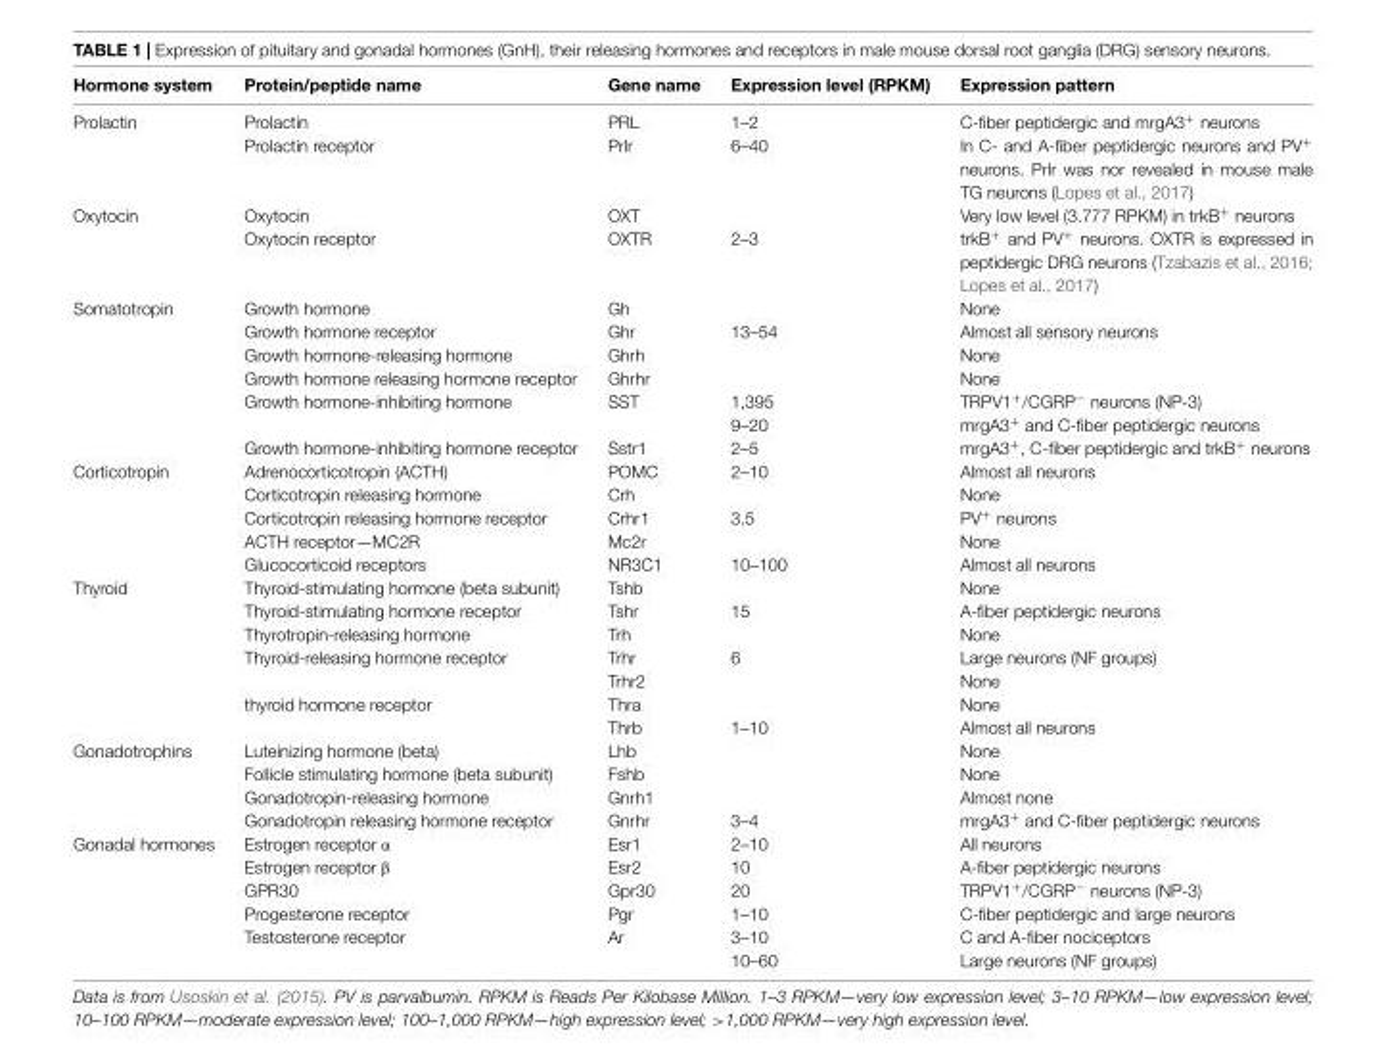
<table><thead><tr><td>Hormone system</td><td>Protein/peptide name</td><td>Gene name</td><td>Expression level (RPKM)</td><td>Expression pattern</td></tr></thead><tbody><tr><td rowspan="2">Prolactin</td><td>Prolactin</td><td>PRL</td><td>1–2</td><td>C-fiber peptidergic and mrgA3<sup>+</sup> neurons</td></tr><tr><td>Prolactin receptor</td><td>Prlr</td><td>6–40</td><td>In C- and A-fiber peptidergic neurons and PV<sup>+</sup> neurons. Prlr was nor revealed in mouse male TG neurons (Lopes et al., 2017)</td></tr><tr><td rowspan="2">Oxytocin</td><td>Oxytocin</td><td>OXT</td><td></td><td>Very low level (3.777 RPKM) in trkB<sup>+</sup> neurons</td></tr><tr><td>Oxytocin receptor</td><td>OXTR</td><td>2–3</td><td>trkB<sup>+</sup> and PV<sup>+</sup> neurons. OXTR is expressed in peptidergic DRG neurons (Tzabazis et al., 2016; Lopes et al., 2017)</td></tr><tr><td rowspan="7">Somatotropin</td><td>Growth hormone</td><td>Gh</td><td></td><td>None</td></tr><tr><td>Growth hormone receptor</td><td>Ghr</td><td>13–54</td><td>Almost all sensory neurons</td></tr><tr><td>Growth hormone-releasing hormone</td><td>Ghrh</td><td></td><td>None</td></tr><tr><td>Growth hormone releasing hormone receptor</td><td>Ghrhr</td><td></td><td>None</td></tr><tr><td>Growth hormone-inhibiting hormone</td><td>SST</td><td>1,395</td><td>TRPV1<sup>+</sup>/CGRP<sup>−</sup> neurons (NP-3)</td></tr><tr><td></td><td></td><td>9–20</td><td>mrgA3<sup>+</sup> and C-fiber peptidergic neurons</td></tr><tr><td>Growth hormone-inhibiting hormone receptor</td><td>Sstr1</td><td>2–5</td><td>mrgA3<sup>+</sup>, C-fiber peptidergic and trkB<sup>+</sup> neurons</td></tr><tr><td rowspan="5">Corticotropin</td><td>Adrenocorticotropin (ACTH)</td><td>POMC</td><td>2–10</td><td>Almost all neurons</td></tr><tr><td>Corticotropin releasing hormone</td><td>Crh</td><td></td><td>None</td></tr><tr><td>Corticotropin releasing hormone receptor</td><td>Crhr1</td><td>3.5</td><td>PV<sup>+</sup> neurons</td></tr><tr><td>ACTH receptor—MC2R</td><td>Mc2r</td><td></td><td>None</td></tr><tr><td>Glucocorticoid receptors</td><td>NR3C1</td><td>10–100</td><td>Almost all neurons</td></tr><tr><td rowspan="7">Thyroid</td><td>Thyroid-stimulating hormone (beta subunit)</td><td>Tshb</td><td></td><td>None</td></tr><tr><td>Thyroid-stimulating hormone receptor</td><td>Tshr</td><td>15</td><td>A-fiber peptidergic neurons</td></tr><tr><td>Thyrotropin-releasing hormone</td><td>Trh</td><td></td><td>None</td></tr><tr><td>Thyroid-releasing hormone receptor</td><td>Trhr</td><td>6</td><td>Large neurons (NF groups)</td></tr><tr><td></td><td>Trhr2</td><td></td><td>None</td></tr><tr><td>thyroid hormone receptor</td><td>Thra</td><td></td><td>None</td></tr><tr><td></td><td>Thrb</td><td>1–10</td><td>Almost all neurons</td></tr><tr><td rowspan="4">Gonadotrophins</td><td>Luteinizing hormone (beta)</td><td>Lhb</td><td></td><td>None</td></tr><tr><td>Follicle stimulating hormone (beta subunit)</td><td>Fshb</td><td></td><td>None</td></tr><tr><td>Gonadotropin-releasing hormone</td><td>Gnrh1</td><td></td><td>Almost none</td></tr><tr><td>Gonadotropin releasing hormone receptor</td><td>Gnrhr</td><td>3–4</td><td>mrgA3<sup>+</sup> and C-fiber peptidergic neurons</td></tr><tr><td rowspan="6">Gonadal hormones</td><td>Estrogen receptor α</td><td>Esr1</td><td>2–10</td><td>All neurons</td></tr><tr><td>Estrogen receptor β</td><td>Esr2</td><td>10</td><td>A-fiber peptidergic neurons</td></tr><tr><td>GPR30</td><td>Gpr30</td><td>20</td><td>TRPV1<sup>+</sup>/CGRP<sup>−</sup> neurons (NP-3)</td></tr><tr><td>Progesterone receptor</td><td>Pgr</td><td>1–10</td><td>C-fiber peptidergic and large neurons</td></tr><tr><td>Testosterone receptor</td><td>Ar</td><td>3–10</td><td>C and A-fiber nociceptors</td></tr><tr><td></td><td></td><td>10–60</td><td>Large neurons (NF groups)</td></tr></tbody></table>